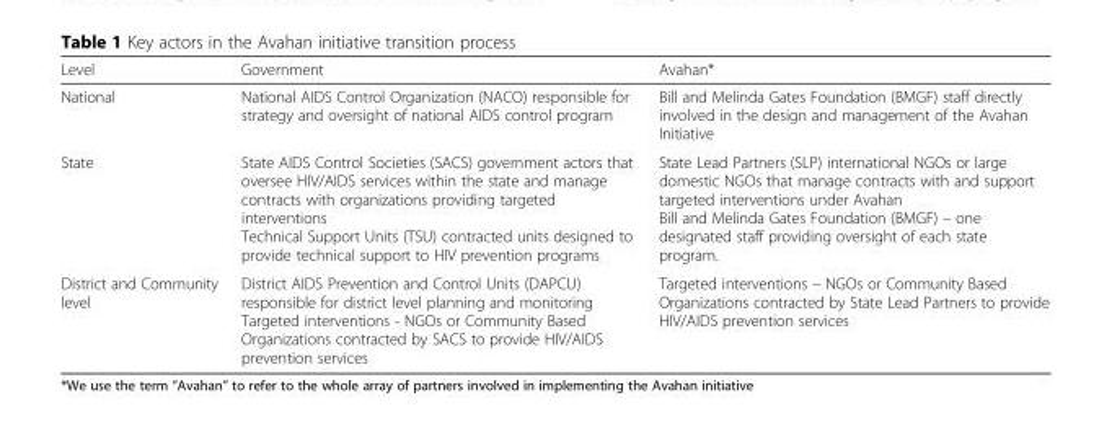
<table><thead><tr><td>Level</td><td>Government</td><td>Avahan*</td></tr></thead><tbody><tr><td>National</td><td>National AIDS Control Organization (NACO) responsible for strategy and oversight of national AIDS control program</td><td>Bill and Melinda Gates Foundation (BMGF) staff directly involved in the design and management of the Avahan Initiative</td></tr><tr><td>State</td><td>State AIDS Control Societies (SACS) government actors that oversee HIV/AIDS services within the state and manage contracts with organizations providing targeted interventions Technical Support Units (TSU) contracted units designed to provide technical support to HIV prevention programs</td><td>State Lead Partners (SLP) international NGOs or large domestic NGOs that manage contracts with and support targeted interventions under Avahan Bill and Melinda Gates Foundation (BMGF) – one designated staff providing oversight of each state program.</td></tr><tr><td>District and Community level</td><td>District AIDS Prevention and Control Units (DAPCU) responsible for district level planning and monitoring Targeted interventions - NGOs or Community Based Organizations contracted by SACS to provide HIV/AIDS prevention services</td><td>Targeted interventions – NGOs or Community Based Organizations contracted by State Lead Partners to provide HIV/AIDS prevention services</td></tr></tbody></table>